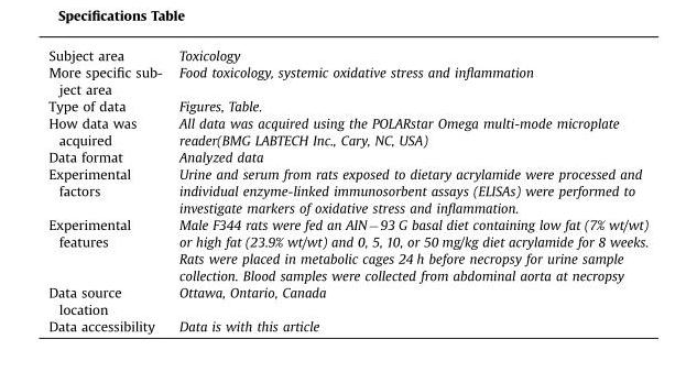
<table><tbody><tr><td>Subject area</td><td>Toxicology</td></tr><tr><td>More specific sub- ject area</td><td>Food toxicology, systemic oxidative stress and inflammation</td></tr><tr><td>Type of data</td><td>Figures, Table.</td></tr><tr><td>How data was acquired</td><td>All data was acquired using the POLARstar Omega multi-mode microplate reader(BMG LABTECH Inc., Cary, NC, USA)</td></tr><tr><td>Data format</td><td>Analyzed data</td></tr><tr><td>Experimental factors</td><td>Urine and serum from rats exposed to dietary acrylamide were processed and individual enzyme-linked immunosorbent assays (ELISAs) were performed to investigate markers of oxidative stress and inflammation.</td></tr><tr><td>Experimental features</td><td>Male F344 rats were fed an AIN−93 G basal diet containing low fat (7% wt/wt) or high fat (23.9% wt/wt) and 0, 5, 10, or 50 mg/kg diet acrylamide for 8 weeks. Rats were placed in metabolic cages 24 h before necropsy for urine sample collection. Blood samples were collected from abdominal aorta at necropsy</td></tr><tr><td>Data source location</td><td>Ottawa, Ontario, Canada</td></tr><tr><td>Data accessibility</td><td>Data is with this article</td></tr></tbody></table>